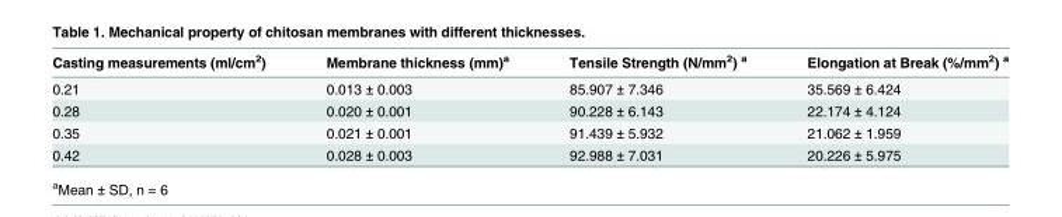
<table><thead><tr><td>Casting measurements (ml/cm<sup>2</sup>)</td><td>Membrane thickness (mm)<sup>a</sup></td><td>Tensile Strength (N/mm<sup>2</sup>) <sup>a</sup></td><td>Elongation at Break (%/mm<sup>2</sup>) <sup>a</sup></td></tr></thead><tbody><tr><td>0.21</td><td>0.013 ± 0.003</td><td>85.907 ± 7.346</td><td>35.569 ± 6.424</td></tr><tr><td>0.28</td><td>0.020 ± 0.001</td><td>90.228 ± 6.143</td><td>22.174 ± 4.124</td></tr><tr><td>0.35</td><td>0.021 ± 0.001</td><td>91.439 ± 5.932</td><td>21.062 ± 1.959</td></tr><tr><td>0.42</td><td>0.028 ± 0.003</td><td>92.988 ± 7.031</td><td>20.226 ± 5.975</td></tr></tbody></table>